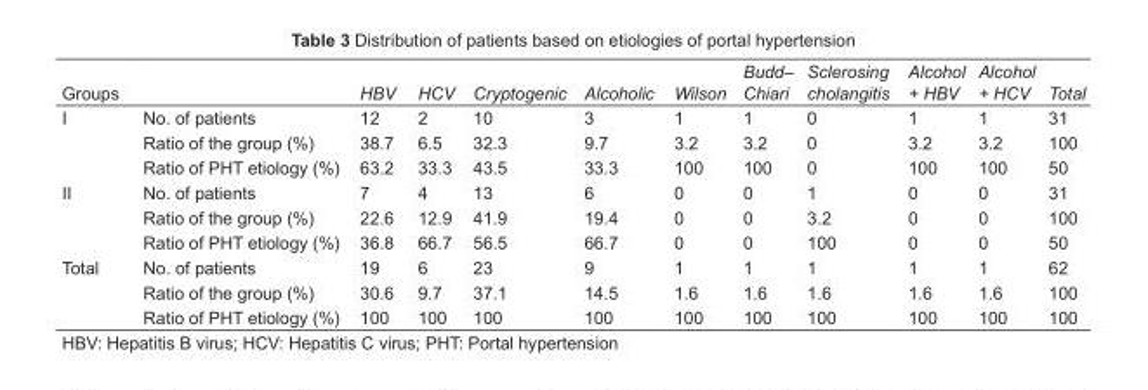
<table><tbody><tr><td>Groups</td><td></td><td>HBV</td><td>HCV</td><td>Cryptogenic</td><td>Alcoholic</td><td>Wilson</td><td>Budd– Chiari</td><td>Sclerosing cholangitis</td><td>Alcohol + HBV</td><td>Alcohol + HCV</td><td>Total</td></tr><tr><td rowspan="3">I</td><td>No. of patients</td><td>12</td><td>2</td><td>10</td><td>3</td><td>1</td><td>1</td><td>0</td><td>1</td><td>1</td><td>31</td></tr><tr><td>Ratio of the group (%)</td><td>38.7</td><td>6.5</td><td>32.3</td><td>9.7</td><td>3.2</td><td>3.2</td><td>0</td><td>3.2</td><td>3.2</td><td>100</td></tr><tr><td>Ratio of PHT etiology (%)</td><td>63.2</td><td>33.3</td><td>43.5</td><td>33.3</td><td>100</td><td>100</td><td>0</td><td>100</td><td>100</td><td>50</td></tr><tr><td rowspan="3">II</td><td>No. of patients</td><td>7</td><td>4</td><td>13</td><td>6</td><td>0</td><td>0</td><td>1</td><td>0</td><td>0</td><td>31</td></tr><tr><td>Ratio of the group (%)</td><td>22.6</td><td>12.9</td><td>41.9</td><td>19.4</td><td>0</td><td>0</td><td>3.2</td><td>0</td><td>0</td><td>100</td></tr><tr><td>Ratio of PHT etiology (%)</td><td>36.8</td><td>66.7</td><td>56.5</td><td>66.7</td><td>0</td><td>0</td><td>100</td><td>0</td><td>0</td><td>50</td></tr><tr><td rowspan="3">Total</td><td>No. of patients</td><td>19</td><td>6</td><td>23</td><td>9</td><td>1</td><td>1</td><td>1</td><td>1</td><td>1</td><td>62</td></tr><tr><td>Ratio of the group (%)</td><td>30.6</td><td>9.7</td><td>37.1</td><td>14.5</td><td>1.6</td><td>1.6</td><td>1.6</td><td>1.6</td><td>1.6</td><td>100</td></tr><tr><td>Ratio of PHT etiology (%)</td><td>100</td><td>100</td><td>100</td><td>100</td><td>100</td><td>100</td><td>100</td><td>100</td><td>100</td><td>100</td></tr></tbody></table>